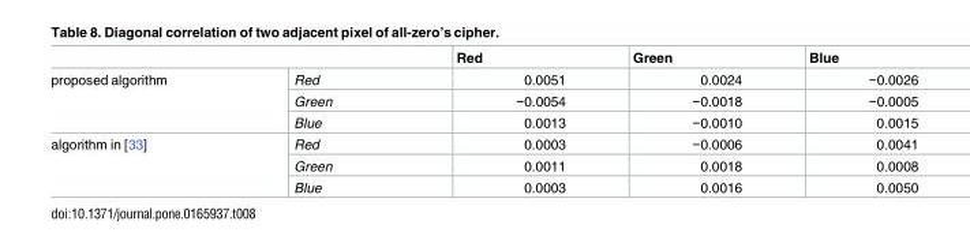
<table><thead><tr><td></td><td></td><td>Red</td><td>Green</td><td>Blue</td></tr></thead><tbody><tr><td rowspan="3">proposed algorithm</td><td>Red</td><td>0.0051</td><td>0.0024</td><td>−0.0026</td></tr><tr><td>Green</td><td>−0.0054</td><td>−0.0018</td><td>−0.0005</td></tr><tr><td>Blue</td><td>0.0013</td><td>−0.0010</td><td>0.0015</td></tr><tr><td rowspan="3">algorithm in [33]</td><td>Red</td><td>0.0003</td><td>−0.0006</td><td>0.0041</td></tr><tr><td>Green</td><td>0.0011</td><td>0.0018</td><td>0.0008</td></tr><tr><td>Blue</td><td>0.0003</td><td>0.0016</td><td>0.0050</td></tr></tbody></table>